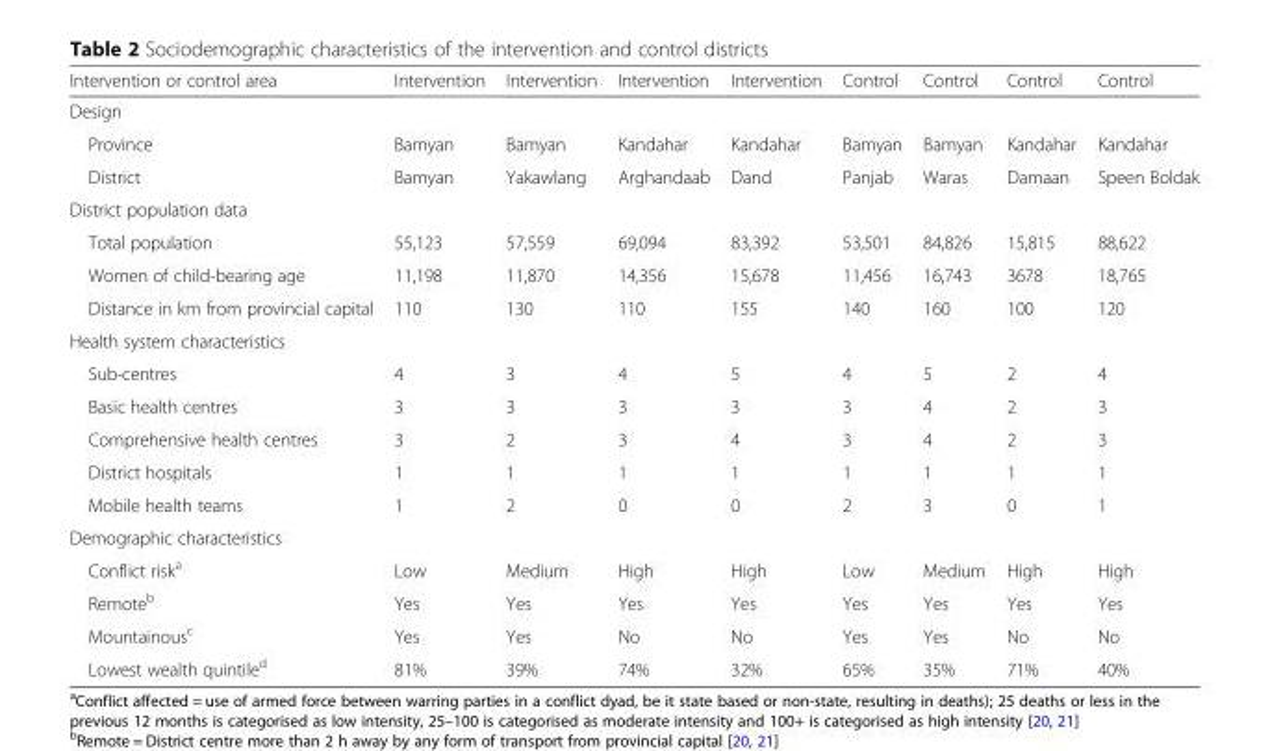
<table><thead><tr><td>Intervention or control area</td><td>Intervention</td><td>Intervention</td><td>Intervention</td><td>Intervention</td><td>Control</td><td>Control</td><td>Control</td><td>Control</td></tr></thead><tbody><tr><td colspan="9">Design</td></tr><tr><td>Province</td><td>Bamyan</td><td>Bamyan</td><td>Kandahar</td><td>Kandahar</td><td>Bamyan</td><td>Bamyan</td><td>Kandahar</td><td>Kandahar</td></tr><tr><td>District</td><td>Bamyan</td><td>Yakawlang</td><td>Arghandaab</td><td>Dand</td><td>Panjab</td><td>Waras</td><td>Damaan</td><td>Speen Boldak</td></tr><tr><td colspan="9">District population data</td></tr><tr><td>Total population</td><td>55,123</td><td>57,559</td><td>69,094</td><td>83,392</td><td>53,501</td><td>84,826</td><td>15,815</td><td>88,622</td></tr><tr><td>Women of child-bearing age</td><td>11,198</td><td>11,870</td><td>14,356</td><td>15,678</td><td>11,456</td><td>16,743</td><td>3678</td><td>18,765</td></tr><tr><td>Distance in km from provincial capital</td><td>110</td><td>130</td><td>110</td><td>155</td><td>140</td><td>160</td><td>100</td><td>120</td></tr><tr><td colspan="9">Health system characteristics</td></tr><tr><td>Sub-centres</td><td>4</td><td>3</td><td>4</td><td>5</td><td>4</td><td>5</td><td>2</td><td>4</td></tr><tr><td>Basic health centres</td><td>3</td><td>3</td><td>3</td><td>3</td><td>3</td><td>4</td><td>2</td><td>3</td></tr><tr><td>Comprehensive health centres</td><td>3</td><td>2</td><td>3</td><td>4</td><td>3</td><td>4</td><td>2</td><td>3</td></tr><tr><td>District hospitals</td><td>1</td><td>1</td><td>1</td><td>1</td><td>1</td><td>1</td><td>1</td><td>1</td></tr><tr><td>Mobile health teams</td><td>1</td><td>2</td><td>0</td><td>0</td><td>2</td><td>3</td><td>0</td><td>1</td></tr><tr><td colspan="9">Demographic characteristics</td></tr><tr><td>Conflict risk<sup>a</sup></td><td>Low</td><td>Medium</td><td>High</td><td>High</td><td>Low</td><td>Medium</td><td>High</td><td>High</td></tr><tr><td>Remote<sup>b</sup></td><td>Yes</td><td>Yes</td><td>Yes</td><td>Yes</td><td>Yes</td><td>Yes</td><td>Yes</td><td>Yes</td></tr><tr><td>Mountainous<sup>c</sup></td><td>Yes</td><td>Yes</td><td>No</td><td>No</td><td>Yes</td><td>Yes</td><td>No</td><td>No</td></tr><tr><td>Lowest wealth quintile<sup>d</sup></td><td>81%</td><td>39%</td><td>74%</td><td>32%</td><td>65%</td><td>35%</td><td>71%</td><td>40%</td></tr></tbody></table>